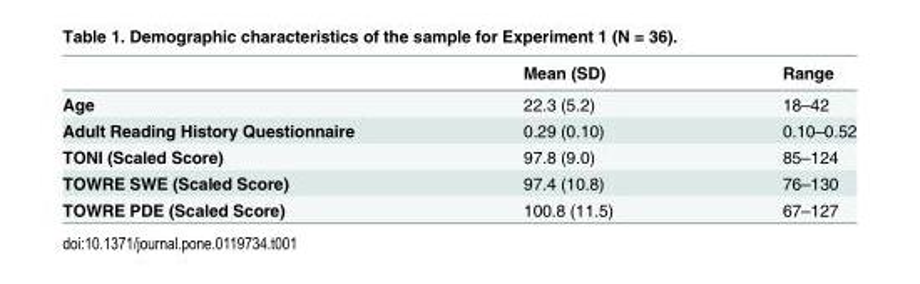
<table><thead><tr><td></td><td>Mean (SD)</td><td>Range</td></tr></thead><tbody><tr><td>Age</td><td>22.3 (5.2)</td><td>18–42</td></tr><tr><td>Adult Reading History Questionnaire</td><td>0.29 (0.10)</td><td>0.10–0.52</td></tr><tr><td>TONI (Scaled Score)</td><td>97.8 (9.0)</td><td>85–124</td></tr><tr><td>TOWRE SWE (Scaled Score)</td><td>97.4 (10.8)</td><td>76–130</td></tr><tr><td>TOWRE PDE (Scaled Score)</td><td>100.8 (11.5)</td><td>67–127</td></tr></tbody></table>